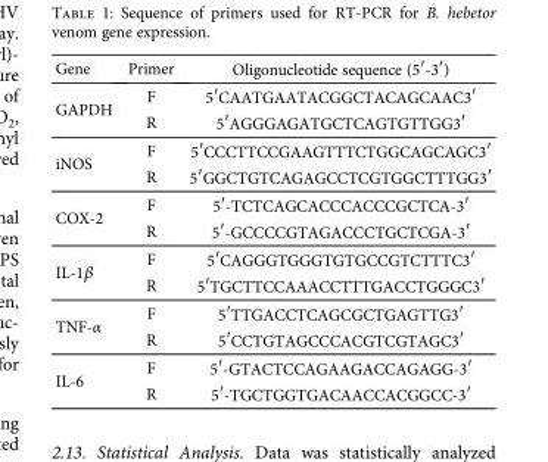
<table><thead><tr><td>Gene</td><td>Primer</td><td>Oligonucleotide sequence (5′-3′)</td></tr></thead><tbody><tr><td rowspan="2">GAPDH</td><td>F</td><td>5′CAATGAATACGGCTACAGCAAC3′</td></tr><tr><td>R</td><td>5′AGGGAGATGCTCAGTGTTGG3′</td></tr><tr><td rowspan="2">iNOS</td><td>F</td><td>5′CCCTTCCGAAGTTTCTGGCAGCAGC3′</td></tr><tr><td>R</td><td>5′GGCTGTCAGAGCCTCGTGGCTTTGG3′</td></tr><tr><td rowspan="2">COX-2</td><td>F</td><td>5′-TCTCAGCACCCACCCGCTCA-3′</td></tr><tr><td>R</td><td>5′-GCCCCGTAGACCCTGCTCGA-3′</td></tr><tr><td rowspan="2">IL-1β</td><td>F</td><td>5′CAGGGTGGGTGTGCCGTCTTTC3′</td></tr><tr><td>R</td><td>5′TGCTTCCAAACCTTTGACCTGGGC3′</td></tr><tr><td rowspan="2">TNF-α</td><td>F</td><td>5′TTGACCTCAGCGCTGAGTTG3′</td></tr><tr><td>R</td><td>5′CCTGTAGCCCACGTCGTAGC3′</td></tr><tr><td rowspan="2">IL-6</td><td>F</td><td>5′-GTACTCCAGAAGACCAGAGG-3′</td></tr><tr><td>R</td><td>5′-TGCTGGTGACAACCACGGCC-3′</td></tr></tbody></table>